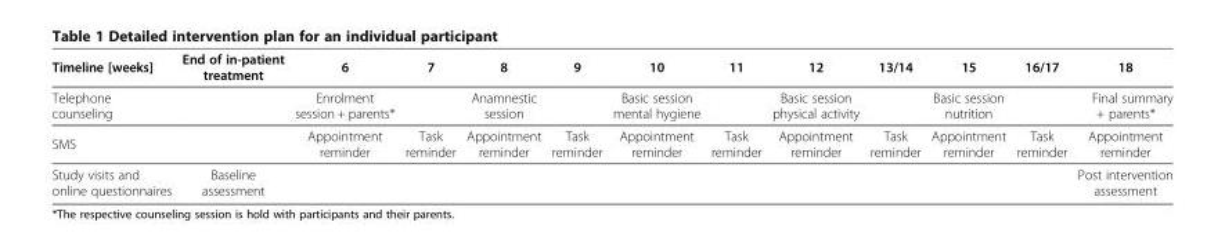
<table><thead><tr><td>Timeline [weeks]</td><td>End of in-patient treatment</td><td>6</td><td>7</td><td>8</td><td>9</td><td>10</td><td>11</td><td>12</td><td>13/14</td><td>15</td><td>16/17</td><td>18</td></tr></thead><tbody><tr><td>Telephone counseling</td><td></td><td>Enrolment session + parents*</td><td></td><td>Anamnestic session</td><td></td><td>Basic session mental hygiene</td><td></td><td>Basic session physical activity</td><td></td><td>Basic session nutrition</td><td></td><td>Final summary + parents*</td></tr><tr><td>SMS</td><td></td><td>Appointment reminder</td><td>Task reminder</td><td>Appointment reminder</td><td>Task reminder</td><td>Appointment reminder</td><td>Task reminder</td><td>Appointment reminder</td><td>Task reminder</td><td>Appointment reminder</td><td>Task reminder</td><td>Appointment reminder</td></tr><tr><td>Study visits and online questionnaires</td><td>Baseline assessment</td><td></td><td></td><td></td><td></td><td></td><td></td><td></td><td></td><td></td><td></td><td>Post intervention assessment</td></tr></tbody></table>